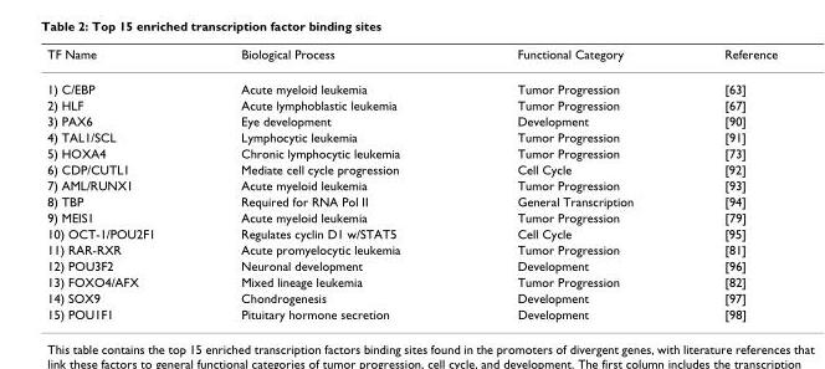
<table><thead><tr><td>TF Name</td><td>Biological Process</td><td>Functional Category</td><td>Reference</td></tr></thead><tbody><tr><td>1) C/EBP</td><td>Acute myeloid leukemia</td><td>Tumor Progression</td><td>[63]</td></tr><tr><td>2) HLF</td><td>Acute lymphoblastic leukemia</td><td>Tumor Progression</td><td>[67]</td></tr><tr><td>3) PAX6</td><td>Eye development</td><td>Development</td><td>[90]</td></tr><tr><td>4) TAL1/SCL</td><td>Lymphocytic leukemia</td><td>Tumor Progression</td><td>[91]</td></tr><tr><td>5) HOXA4</td><td>Chronic lymphocytic leukemia</td><td>Tumor Progression</td><td>[73]</td></tr><tr><td>6) CDP/CUTL1</td><td>Mediate cell cycle progression</td><td>Cell Cycle</td><td>[92]</td></tr><tr><td>7) AML/RUNX1</td><td>Acute myeloid leukemia</td><td>Tumor Progression</td><td>[93]</td></tr><tr><td>8) TBP</td><td>Required for RNA Pol II</td><td>General Transcription</td><td>[94]</td></tr><tr><td>9) MEIS1</td><td>Acute myeloid leukemia</td><td>Tumor Progression</td><td>[79]</td></tr><tr><td>10) OCT-1/POU2F1</td><td>Regulates cyclin D1 w/STAT5</td><td>Cell Cycle</td><td>[95]</td></tr><tr><td>11) RAR-RXR</td><td>Acute promyelocytic leukemia</td><td>Tumor Progression</td><td>[81]</td></tr><tr><td>12) POU3F2</td><td>Neuronal development</td><td>Development</td><td>[96]</td></tr><tr><td>13) FOXO4/AFX</td><td>Mixed lineage leukemia</td><td>Tumor Progression</td><td>[82]</td></tr><tr><td>14) SOX9</td><td>Chondrogenesis</td><td>Development</td><td>[97]</td></tr><tr><td>15) POU1F1</td><td>Pituitary hormone secretion</td><td>Development</td><td>[98]</td></tr></tbody></table>